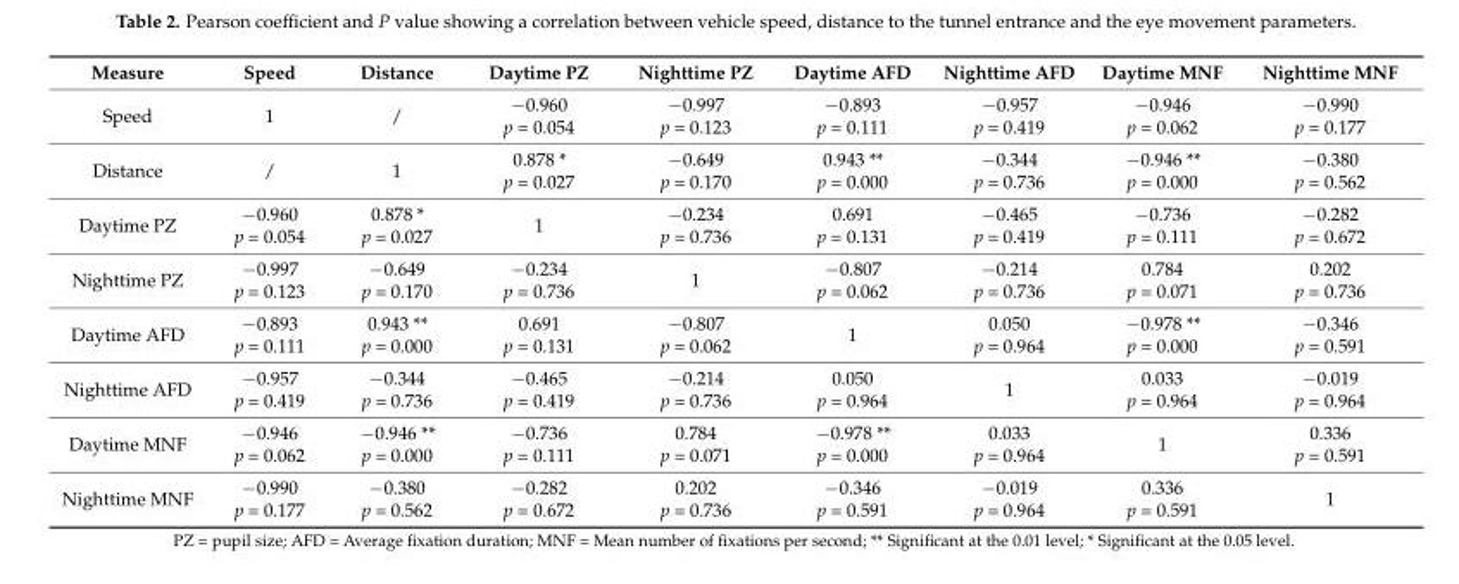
<table><thead><tr><td>Measure</td><td>Speed</td><td>Distance</td><td>Daytime PZ</td><td>Nighttime PZ</td><td>Daytime AFD</td><td>Nighttime AFD</td><td>Daytime MNF</td><td>Nighttime MNF</td></tr></thead><tbody><tr><td>Speed</td><td>1</td><td>/</td><td>−0.960 p = 0.054</td><td>−0.997 p = 0.123</td><td>−0.893 p = 0.111</td><td>−0.957 p = 0.419</td><td>−0.946 p = 0.062</td><td>−0.990 p = 0.177</td></tr><tr><td>Distance</td><td>/</td><td>1</td><td>0.878 * p = 0.027</td><td>−0.649 p = 0.170</td><td>0.943 ** p = 0.000</td><td>−0.344 p = 0.736</td><td>−0.946 ** p = 0.000</td><td>−0.380 p = 0.562</td></tr><tr><td>Daytime PZ</td><td>−0.960 p = 0.054</td><td>0.878 * p = 0.027</td><td>1</td><td>−0.234 p = 0.736</td><td>0.691 p = 0.131</td><td>−0.465 p = 0.419</td><td>−0.736 p = 0.111</td><td>−0.282 p = 0.672</td></tr><tr><td>Nighttime PZ</td><td>−0.997 p = 0.123</td><td>−0.649 p = 0.170</td><td>−0.234 p = 0.736</td><td>1</td><td>−0.807 p = 0.062</td><td>−0.214 p = 0.736</td><td>0.784 p = 0.071</td><td>0.202 p = 0.736</td></tr><tr><td>Daytime AFD</td><td>−0.893 p = 0.111</td><td>0.943 ** p = 0.000</td><td>0.691 p = 0.131</td><td>−0.807 p = 0.062</td><td>1</td><td>0.050 p = 0.964</td><td>−0.978 ** p = 0.000</td><td>−0.346 p = 0.591</td></tr><tr><td>Nighttime AFD</td><td>−0.957 p = 0.419</td><td>−0.344 p = 0.736</td><td>−0.465 p = 0.419</td><td>−0.214 p = 0.736</td><td>0.050 p = 0.964</td><td>1</td><td>0.033 p = 0.964</td><td>−0.019 p = 0.964</td></tr><tr><td>Daytime MNF</td><td>−0.946 p = 0.062</td><td>−0.946 ** p = 0.000</td><td>−0.736 p = 0.111</td><td>0.784 p = 0.071</td><td>−0.978 ** p = 0.000</td><td>0.033 p = 0.964</td><td>1</td><td>0.336 p = 0.591</td></tr><tr><td>Nighttime MNF</td><td>−0.990 p = 0.177</td><td>−0.380 p = 0.562</td><td>−0.282 p = 0.672</td><td>0.202 p = 0.736</td><td>−0.346 p = 0.591</td><td>−0.019 p = 0.964</td><td>0.336 p = 0.591</td><td>1</td></tr></tbody></table>